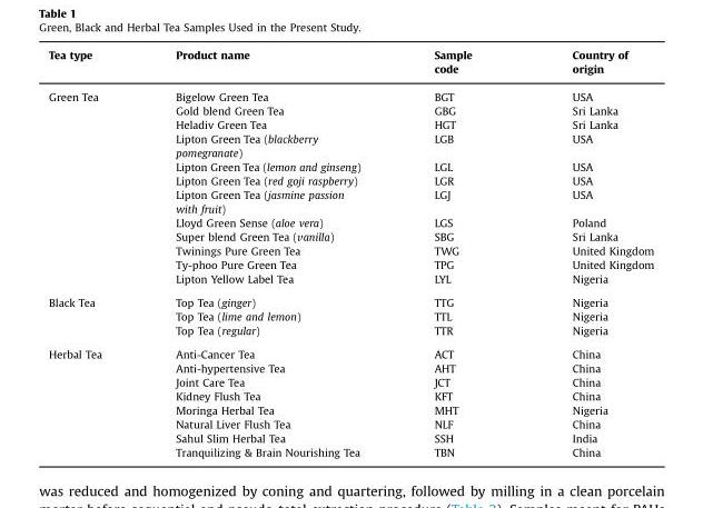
<table><thead><tr><td>Tea type</td><td>Product name</td><td>Sample code</td><td>Country of origin</td></tr></thead><tbody><tr><td rowspan="12">Green Tea</td><td>Bigelow Green Tea</td><td>BGT</td><td>USA</td></tr><tr><td>Gold blend Green Tea</td><td>GBG</td><td>Sri Lanka</td></tr><tr><td>Heladiv Green Tea</td><td>HGT</td><td>Sri Lanka</td></tr><tr><td>Lipton Green Tea (blackberry pomegranate)</td><td>LGB</td><td>USA</td></tr><tr><td>Lipton Green Tea (lemon and ginseng)</td><td>LGL</td><td>USA</td></tr><tr><td>Lipton Green Tea (red goji raspberry)</td><td>LGR</td><td>USA</td></tr><tr><td>Lipton Green Tea (jasmine passion with fruit)</td><td>LGJ</td><td>USA</td></tr><tr><td>Lloyd Green Sense (aloe vera)</td><td>LGS</td><td>Poland</td></tr><tr><td>Super blend Green Tea (vanilla)</td><td>SBG</td><td>Sri Lanka</td></tr><tr><td>Twinings Pure Green Tea</td><td>TWG</td><td>United Kingdom</td></tr><tr><td>Ty-phoo Pure Green Tea</td><td>TPG</td><td>United Kingdom</td></tr><tr><td>Lipton Yellow Label Tea</td><td>LYL</td><td>Nigeria</td></tr><tr><td rowspan="3">Black Tea</td><td>Top Tea (ginger)</td><td>TTG</td><td>Nigeria</td></tr><tr><td>Top Tea (lime and lemon)</td><td>TTL</td><td>Nigeria</td></tr><tr><td>Top Tea (regular)</td><td>TTR</td><td>Nigeria</td></tr><tr><td rowspan="8">Herbal Tea</td><td>Anti-Cancer Tea</td><td>ACT</td><td>China</td></tr><tr><td>Anti-hypertensive Tea</td><td>AHT</td><td>China</td></tr><tr><td>Joint Care Tea</td><td>JCT</td><td>China</td></tr><tr><td>Kidney Flush Tea</td><td>KFT</td><td>China</td></tr><tr><td>Moringa Herbal Tea</td><td>MHT</td><td>Nigeria</td></tr><tr><td>Natural Liver Flush Tea</td><td>NLF</td><td>China</td></tr><tr><td>Sahul Slim Herbal Tea</td><td>SSH</td><td>India</td></tr><tr><td>Tranquilizing &amp; Brain Nourishing Tea</td><td>TBN</td><td>China</td></tr></tbody></table>